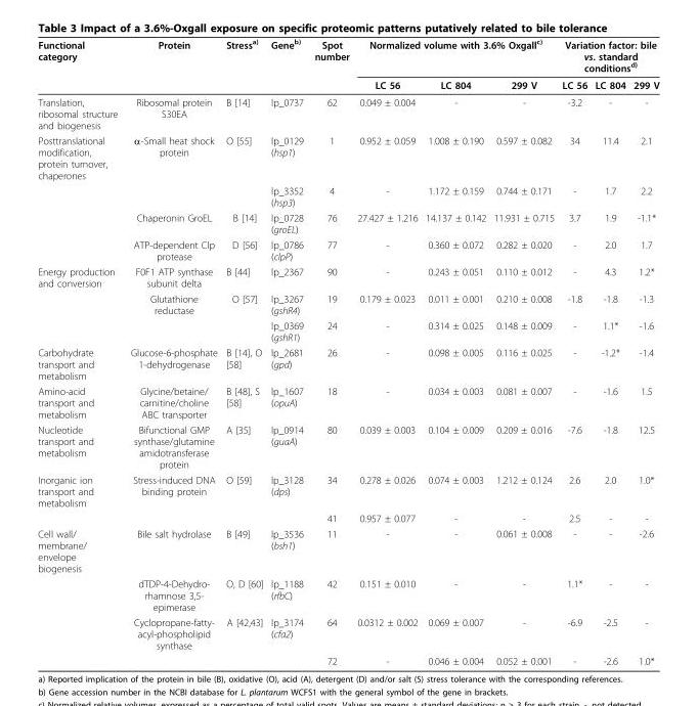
<table><thead><tr><td rowspan="2">Functional category</td><td rowspan="2">Protein</td><td rowspan="2">Stress<sup>a)</sup></td><td rowspan="2">Gene<sup>b)</sup></td><td rowspan="2">Spot number</td><td colspan="3">Normalized volume with 3.6% Oxgall<sup>c)</sup></td><td colspan="3">Variation factor: bile vs. standard conditions<sup>d)</sup></td></tr><tr><td>LC 56</td><td>LC 804</td><td>299 V</td><td>LC 56</td><td>LC 804</td><td>299 V</td></tr></thead><tbody><tr><td>Translation, ribosomal structure and biogenesis</td><td>Ribosomal protein S30EA</td><td>B [14]</td><td>lp_0737</td><td>62</td><td>0.049 ± 0.004</td><td>-</td><td>-</td><td>-3.2</td><td>-</td><td>-</td></tr><tr><td rowspan="4">Posttranslational modification, protein turnover, chaperones</td><td>α-Small heat shock protein</td><td>O [55]</td><td>lp_0129 (hsp1)</td><td>1</td><td>0.952 ± 0.059</td><td>1.008 ± 0.190</td><td>0.597 ± 0.082</td><td>34</td><td>11.4</td><td>2.1</td></tr><tr><td></td><td></td><td>lp_3352 (hsp3)</td><td>4</td><td>-</td><td>1.172 ± 0.159</td><td>0.744 ± 0.171</td><td>-</td><td>1.7</td><td>2.2</td></tr><tr><td>Chaperonin GroEL</td><td>B [14]</td><td>lp_0728 (groEL)</td><td>76</td><td>27.427 ± 1.216</td><td>14.137 ± 0.142</td><td>11.931 ± 0.715</td><td>3.7</td><td>1.9</td><td>-1.1*</td></tr><tr><td>ATP-dependent Clp protease</td><td>D [56]</td><td>lp_0786 (clpP)</td><td>77</td><td>-</td><td>0.360 ± 0.072</td><td>0.282 ± 0.020</td><td>-</td><td>2.0</td><td>1.7</td></tr><tr><td rowspan="3">Energy production and conversion</td><td>F0F1 ATP synthase subunit delta</td><td>B [44]</td><td>lp_2367</td><td>90</td><td>-</td><td>0.243 ± 0.051</td><td>0.110 ± 0.012</td><td>-</td><td>4.3</td><td>1.2*</td></tr><tr><td>Glutathione reductase</td><td>O [57]</td><td>lp_3267 (gshR4)</td><td>19</td><td>0.179 ± 0.023</td><td>0.011 ± 0.001</td><td>0.210 ± 0.008</td><td>-1.8</td><td>-1.8</td><td>-1.3</td></tr><tr><td></td><td></td><td>lp_0369 (gshR1)</td><td>24</td><td>-</td><td>0.314 ± 0.025</td><td>0.148 ± 0.009</td><td>-</td><td>1.1*</td><td>-1.6</td></tr><tr><td>Carbohydrate transport and metabolism</td><td>Glucose-6-phosphate 1-dehydrogenase</td><td>B [14], O [58]</td><td>lp_2681 (gpd)</td><td>26</td><td>-</td><td>0.098 ± 0.005</td><td>0.116 ± 0.025</td><td>-</td><td>-1.2*</td><td>-1.4</td></tr><tr><td>Amino-acid transport and metabolism</td><td>Glycine/betaine/ carnitine/choline ABC transporter</td><td>B [48], S [58]</td><td>lp_1607 (opuA)</td><td>18</td><td>-</td><td>0.034 ± 0.003</td><td>0.081 ± 0.007</td><td>-</td><td>-1.6</td><td>1.5</td></tr><tr><td>Nucleotide transport and metabolism</td><td>Bifunctional GMP synthase/glutamine amidotransferase protein</td><td>A [35]</td><td>lp_0914 (guaA)</td><td>80</td><td>0.039 ± 0.003</td><td>0.104 ± 0.009</td><td>0.209 ± 0.016</td><td>-7.6</td><td>-1.8</td><td>12.5</td></tr><tr><td rowspan="2">Inorganic ion transport and metabolism</td><td>Stress-induced DNA binding protein</td><td>O [59]</td><td>lp_3128 (dps)</td><td>34</td><td>0.278 ± 0.026</td><td>0.074 ± 0.003</td><td>1.212 ± 0.124</td><td>2.6</td><td>2.0</td><td>1.0*</td></tr><tr><td></td><td></td><td></td><td>41</td><td>0.957 ± 0.077</td><td>-</td><td>-</td><td>2.5</td><td>-</td><td>-</td></tr><tr><td rowspan="4">Cell wall/ membrane/ envelope biogenesis</td><td>Bile salt hydrolase</td><td>B [49]</td><td>lp_3536 (bsh1)</td><td>11</td><td>-</td><td>-</td><td>0.061 ± 0.008</td><td>-</td><td>-</td><td>-2.6</td></tr><tr><td>dTDP-4-Dehydro- rhamnose 3,5- epimerase</td><td>O, D [60]</td><td>lp_1188 (rfbC)</td><td>42</td><td>0.151 ± 0.010</td><td>-</td><td>-</td><td>1.1*</td><td>-</td><td>-</td></tr><tr><td>Cyclopropane-fatty- acyl-phospholipid synthase</td><td>A [42,43]</td><td>lp_3174 (cfa2)</td><td>64</td><td>0.0312 ± 0.002</td><td>0.069 ± 0.007</td><td>-</td><td>-6.9</td><td>-2.5</td><td>-</td></tr><tr><td></td><td></td><td></td><td>72</td><td>-</td><td>0.046 ± 0.004</td><td>0.052 ± 0.001</td><td>-</td><td>-2.6</td><td>1.0*</td></tr></tbody></table>